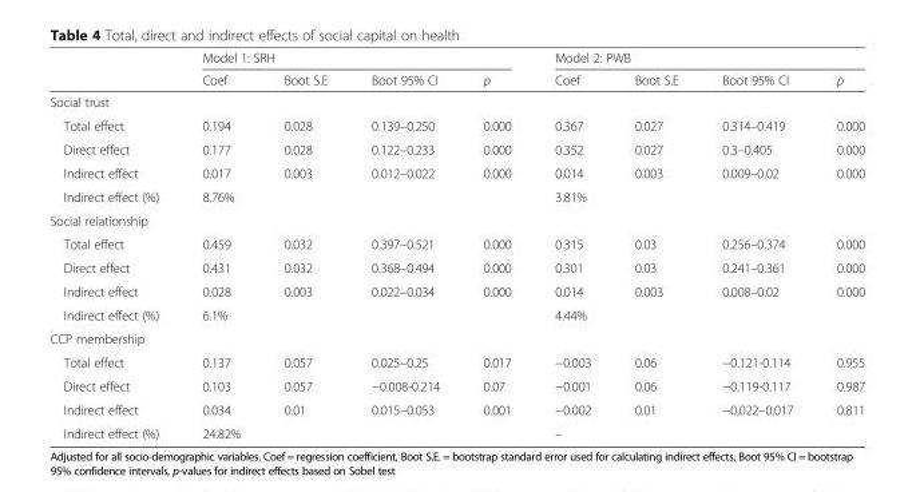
<table><thead><tr><td rowspan="2"></td><td colspan="4">Model 1: SRH</td><td colspan="4">Model 2: PWB</td></tr><tr><td>Coef</td><td>Boot S.E</td><td>Boot 95% CI</td><td>p</td><td>Coef</td><td>Boot S.E</td><td>Boot 95% CI</td><td>p</td></tr></thead><tbody><tr><td colspan="9">Social trust</td></tr><tr><td>Total effect</td><td>0.194</td><td>0.028</td><td>0.139–0.250</td><td>0.000</td><td>0.367</td><td>0.027</td><td>0.314–0.419</td><td>0.000</td></tr><tr><td>Direct effect</td><td>0.177</td><td>0.028</td><td>0.122–0.233</td><td>0.000</td><td>0.352</td><td>0.027</td><td>0.3–0.405</td><td>0.000</td></tr><tr><td>Indirect effect</td><td>0.017</td><td>0.003</td><td>0.012–0.022</td><td>0.000</td><td>0.014</td><td>0.003</td><td>0.009–0.02</td><td>0.000</td></tr><tr><td>Indirect effect (%)</td><td>8.76%</td><td></td><td></td><td></td><td>3.81%</td><td></td><td></td><td></td></tr><tr><td colspan="9">Social relationship</td></tr><tr><td>Total effect</td><td>0.459</td><td>0.032</td><td>0.397–0.521</td><td>0.000</td><td>0.315</td><td>0.03</td><td>0.256–0.374</td><td>0.000</td></tr><tr><td>Direct effect</td><td>0.431</td><td>0.032</td><td>0.368–0.494</td><td>0.000</td><td>0.301</td><td>0.03</td><td>0.241–0.361</td><td>0.000</td></tr><tr><td>Indirect effect</td><td>0.028</td><td>0.003</td><td>0.022–0.034</td><td>0.000</td><td>0.014</td><td>0.003</td><td>0.008–0.02</td><td>0.000</td></tr><tr><td>Indirect effect (%)</td><td>6.1%</td><td></td><td></td><td></td><td>4.44%</td><td></td><td></td><td></td></tr><tr><td colspan="9">CCP membership</td></tr><tr><td>Total effect</td><td>0.137</td><td>0.057</td><td>0.025–0.25</td><td>0.017</td><td>−0.003</td><td>0.06</td><td>−0.121-0.114</td><td>0.955</td></tr><tr><td>Direct effect</td><td>0.103</td><td>0.057</td><td>−0.008-0.214</td><td>0.07</td><td>−0.001</td><td>0.06</td><td>−0.119-0.117</td><td>0.987</td></tr><tr><td>Indirect effect</td><td>0.034</td><td>0.01</td><td>0.015–0.053</td><td>0.001</td><td>−0.002</td><td>0.01</td><td>−0,022–0,017</td><td>0.811</td></tr><tr><td>Indirect effect (%)</td><td>24.82%</td><td></td><td></td><td></td><td>–</td><td></td><td></td><td></td></tr></tbody></table>